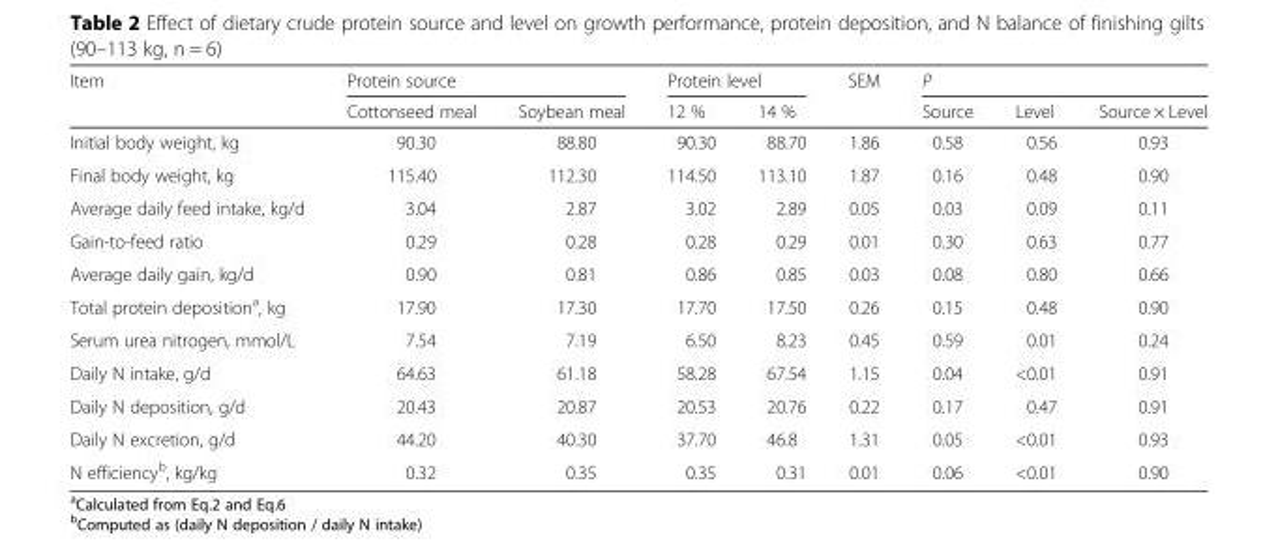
<table><thead><tr><td rowspan="2">Item</td><td colspan="2">Protein source</td><td colspan="2">Protein level</td><td rowspan="2">SEM</td><td colspan="3">P</td></tr><tr><td>Cottonseed meal</td><td>Soybean meal</td><td>12 %</td><td>14 %</td><td>Source</td><td>Level</td><td>Source × Level</td></tr></thead><tbody><tr><td>Initial body weight, kg</td><td>90.30</td><td>88.80</td><td>90.30</td><td>88.70</td><td>1.86</td><td>0.58</td><td>0.56</td><td>0.93</td></tr><tr><td>Final body weight, kg</td><td>115.40</td><td>112.30</td><td>114.50</td><td>113.10</td><td>1.87</td><td>0.16</td><td>0.48</td><td>0.90</td></tr><tr><td>Average daily feed intake, kg/d</td><td>3.04</td><td>2.87</td><td>3.02</td><td>2.89</td><td>0.05</td><td>0.03</td><td>0.09</td><td>0.11</td></tr><tr><td>Gain-to-feed ratio</td><td>0.29</td><td>0.28</td><td>0.28</td><td>0.29</td><td>0.01</td><td>0.30</td><td>0.63</td><td>0.77</td></tr><tr><td>Average daily gain, kg/d</td><td>0.90</td><td>0.81</td><td>0.86</td><td>0.85</td><td>0.03</td><td>0.08</td><td>0.80</td><td>0.66</td></tr><tr><td>Total protein deposition<sup>a</sup>, kg</td><td>17.90</td><td>17.30</td><td>17.70</td><td>17.50</td><td>0.26</td><td>0.15</td><td>0.48</td><td>0.90</td></tr><tr><td>Serum urea nitrogen, mmol/L</td><td>7.54</td><td>7.19</td><td>6.50</td><td>8.23</td><td>0.45</td><td>0.59</td><td>0.01</td><td>0.24</td></tr><tr><td>Daily N intake, g/d</td><td>64.63</td><td>61.18</td><td>58.28</td><td>67.54</td><td>1.15</td><td>0.04</td><td>&lt;0.01</td><td>0.91</td></tr><tr><td>Daily N deposition, g/d</td><td>20.43</td><td>20.87</td><td>20.53</td><td>20.76</td><td>0.22</td><td>0.17</td><td>0.47</td><td>0.91</td></tr><tr><td>Daily N excretion, g/d</td><td>44.20</td><td>40.30</td><td>37.70</td><td>46.8</td><td>1.31</td><td>0.05</td><td>&lt;0.01</td><td>0.93</td></tr><tr><td>N efficiency<sup>b</sup>, kg/kg</td><td>0.32</td><td>0.35</td><td>0.35</td><td>0.31</td><td>0.01</td><td>0.06</td><td>&lt;0.01</td><td>0.90</td></tr></tbody></table>